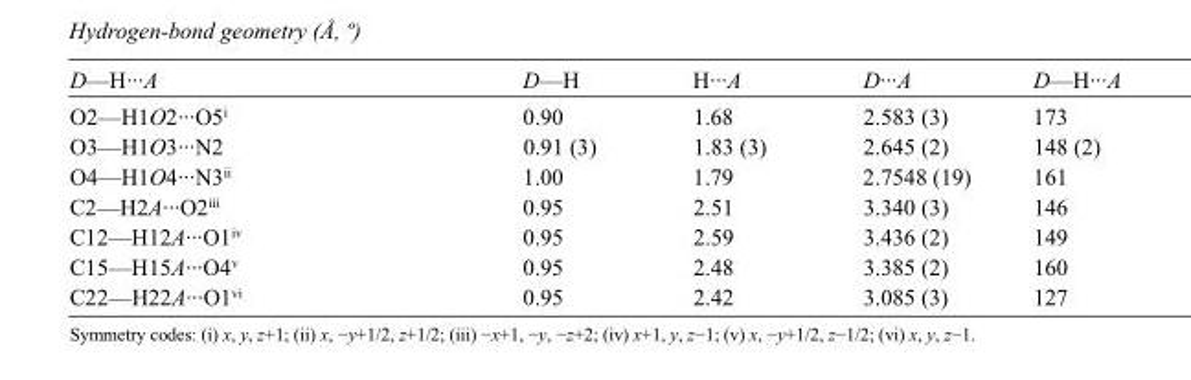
<table><tbody><tr><td>D—H···A</td><td>D—H</td><td>H···A</td><td>D···A</td><td>D—H···A</td></tr><tr><td>O2—H1O2···O5<sup>i</sup></td><td>0.90</td><td>1.68</td><td>2.583 (3)</td><td>173</td></tr><tr><td>O3—H1O3···N2</td><td>0.91 (3)</td><td>1.83 (3)</td><td>2.645 (2)</td><td>148 (2)</td></tr><tr><td>O4—H1O4···N3<sup>ii</sup></td><td>1.00</td><td>1.79</td><td>2.7548 (19)</td><td>161</td></tr><tr><td>C2—H2A···O2<sup>iii</sup></td><td>0.95</td><td>2.51</td><td>3.340 (3)</td><td>146</td></tr><tr><td>C12—H12A···O1<sup>iv</sup></td><td>0.95</td><td>2.59</td><td>3.436 (2)</td><td>149</td></tr><tr><td>C15—H15A···O4<sup>v</sup></td><td>0.95</td><td>2.48</td><td>3.385 (2)</td><td>160</td></tr><tr><td>C22—H22A···O1<sup>vi</sup></td><td>0.95</td><td>2.42</td><td>3.085 (3)</td><td>127</td></tr></tbody></table>